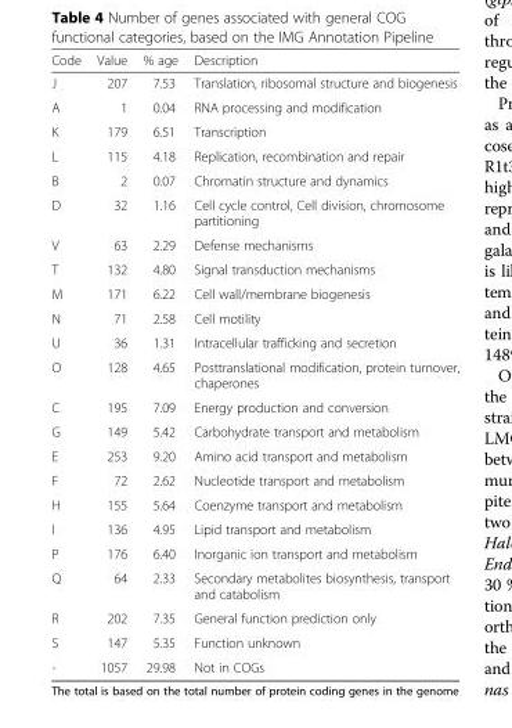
<table><thead><tr><td>Code</td><td>Value</td><td>% age</td><td>Description</td></tr></thead><tbody><tr><td>J</td><td>207</td><td>7.53</td><td>Translation, ribosomal structure and biogenesis</td></tr><tr><td>A</td><td>1</td><td>0.04</td><td>RNA processing and modification</td></tr><tr><td>K</td><td>179</td><td>6.51</td><td>Transcription</td></tr><tr><td>L</td><td>115</td><td>4.18</td><td>Replication, recombination and repair</td></tr><tr><td>B</td><td>2</td><td>0.07</td><td>Chromatin structure and dynamics</td></tr><tr><td>D</td><td>32</td><td>1.16</td><td>Cell cycle control, Cell division, chromosome partitioning</td></tr><tr><td>V</td><td>63</td><td>2.29</td><td>Defense mechanisms</td></tr><tr><td>T</td><td>132</td><td>4.80</td><td>Signal transduction mechanisms</td></tr><tr><td>M</td><td>171</td><td>6.22</td><td>Cell wall/membrane biogenesis</td></tr><tr><td>N</td><td>71</td><td>2.58</td><td>Cell motility</td></tr><tr><td>U</td><td>36</td><td>1.31</td><td>Intracellular trafficking and secretion</td></tr><tr><td>O</td><td>128</td><td>4.65</td><td>Posttranslational modification, protein turnover, chaperones</td></tr><tr><td>C</td><td>195</td><td>7.09</td><td>Energy production and conversion</td></tr><tr><td>G</td><td>149</td><td>5.42</td><td>Carbohydrate transport and metabolism</td></tr><tr><td>E</td><td>253</td><td>9.20</td><td>Amino acid transport and metabolism</td></tr><tr><td>F</td><td>72</td><td>2.62</td><td>Nucleotide transport and metabolism</td></tr><tr><td>H</td><td>155</td><td>5.64</td><td>Coenzyme transport and metabolism</td></tr><tr><td>I</td><td>136</td><td>4.95</td><td>Lipid transport and metabolism</td></tr><tr><td>P</td><td>176</td><td>6.40</td><td>Inorganic ion transport and metabolism</td></tr><tr><td>Q</td><td>64</td><td>2.33</td><td>Secondary metabolites biosynthesis, transport and catabolism</td></tr><tr><td>R</td><td>202</td><td>7.35</td><td>General function prediction only</td></tr><tr><td>S</td><td>147</td><td>5.35</td><td>Function unknown</td></tr><tr><td>-</td><td>1057</td><td>29.98</td><td>Not in COGs</td></tr></tbody></table>